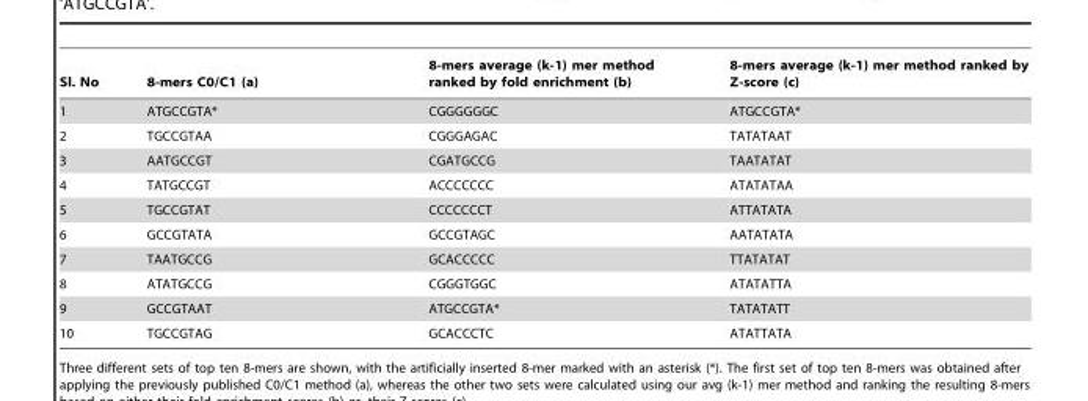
<table><thead><tr><td>Sl. No</td><td>8-mers C0/C1 (a)</td><td>8-mers average (k-1) mer method ranked by fold enrichment (b)</td><td>8-mers average (k-1) mer method ranked by Z-score (c)</td></tr></thead><tbody><tr><td>1</td><td>ATGCCGTA*</td><td>CGGGGGGC</td><td>ATGCCGTA*</td></tr><tr><td>2</td><td>TGCCGTAA</td><td>CGGGAGAC</td><td>TATATAAT</td></tr><tr><td>3</td><td>AATGCCGT</td><td>CGATGCCG</td><td>TAATATAT</td></tr><tr><td>4</td><td>TATGCCGT</td><td>ACCCCCCC</td><td>ATATATAA</td></tr><tr><td>5</td><td>TGCCGTAT</td><td>CCCCCCCT</td><td>ATTATATA</td></tr><tr><td>6</td><td>GCCGTATA</td><td>GCCGTAGC</td><td>AATATATA</td></tr><tr><td>7</td><td>TAATGCCG</td><td>GCACCCCC</td><td>TTATATAT</td></tr><tr><td>8</td><td>ATATGCCG</td><td>CGGGTGGC</td><td>ATATATTA</td></tr><tr><td>9</td><td>GCCGTAAT</td><td>ATGCCGTA*</td><td>TATATATT</td></tr><tr><td>10</td><td>TGCCGTAG</td><td>GCACCCTC</td><td>ATATTATA</td></tr></tbody></table>